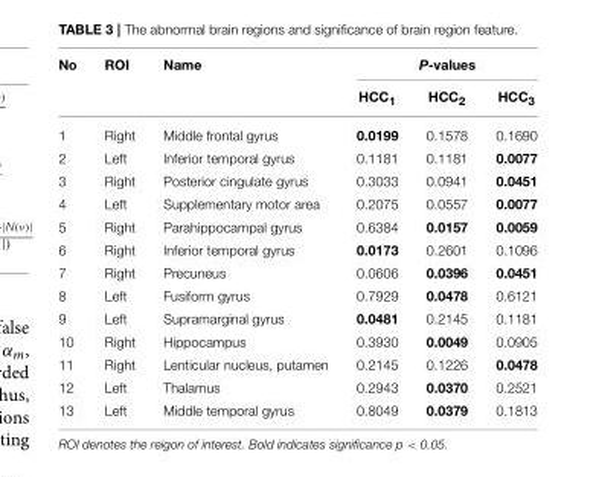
<table><thead><tr><td rowspan="2">No</td><td rowspan="2">ROI</td><td rowspan="2">Name</td><td colspan="3">P-values</td></tr><tr><td>HCC<sub>1</sub></td><td>HCC<sub>2</sub></td><td>HCC<sub>3</sub></td></tr></thead><tbody><tr><td>1</td><td>Right</td><td>Middle frontal gyrus</td><td>0.0199</td><td>0.1578</td><td>0.1690</td></tr><tr><td>2</td><td>Left</td><td>Inferior temporal gyrus</td><td>0.1181</td><td>0.1181</td><td>0.0077</td></tr><tr><td>3</td><td>Right</td><td>Posterior cingulate gyrus</td><td>0.3033</td><td>0.0941</td><td>0.0451</td></tr><tr><td>4</td><td>Left</td><td>Supplementary motor area</td><td>0.2075</td><td>0.0557</td><td>0.0077</td></tr><tr><td>5</td><td>Right</td><td>Parahippocampal gyrus</td><td>0.6384</td><td>0.0157</td><td>0.0059</td></tr><tr><td>6</td><td>Right</td><td>Inferior temporal gyrus</td><td>0.0173</td><td>0.2601</td><td>0.1096</td></tr><tr><td>7</td><td>Right</td><td>Precuneus</td><td>0.0606</td><td>0.0396</td><td>0.0451</td></tr><tr><td>8</td><td>Left</td><td>Fusiform gyrus</td><td>0.7929</td><td>0.0478</td><td>0.6121</td></tr><tr><td>9</td><td>Left</td><td>Supramarginal gyrus</td><td>0.0481</td><td>0.2145</td><td>0.1181</td></tr><tr><td>10</td><td>Right</td><td>Hippocampus</td><td>0.3930</td><td>0.0049</td><td>0.0905</td></tr><tr><td>11</td><td>Right</td><td>Lenticular nucleus, putamen</td><td>0.2145</td><td>0.1226</td><td>0.0478</td></tr><tr><td>12</td><td>Left</td><td>Thalamus</td><td>0.2943</td><td>0.0370</td><td>0.2521</td></tr><tr><td>13</td><td>Left</td><td>Middle temporal gyrus</td><td>0.8049</td><td>0.0379</td><td>0.1813</td></tr></tbody></table>